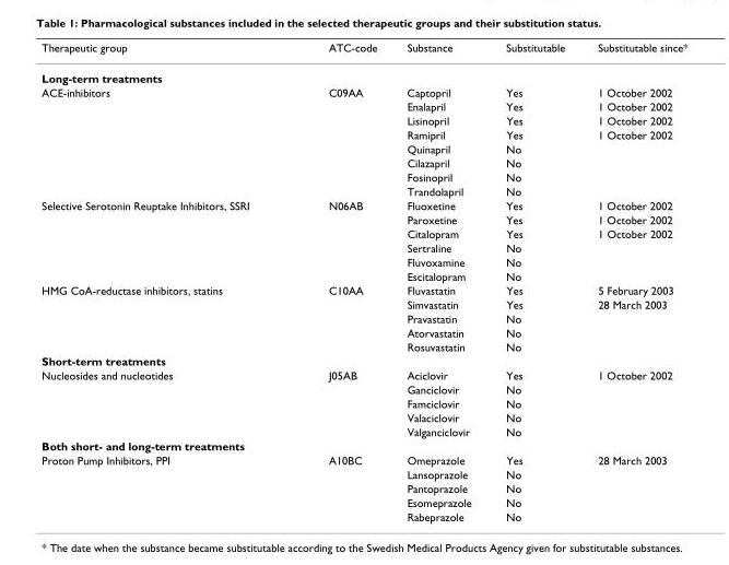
<table><thead><tr><td>Therapeutic group</td><td>ATC-code</td><td>Substance</td><td>Substitutable</td><td>Substitutable since*</td></tr></thead><tbody><tr><td colspan="5">Long-term treatments</td></tr><tr><td rowspan="8">ACE-inhibitors</td><td>C09AA</td><td>Captopril</td><td>Yes</td><td>1 October 2002</td></tr><tr><td></td><td>Enalapril</td><td>Yes</td><td>1 October 2002</td></tr><tr><td></td><td>Lisinopril</td><td>Yes</td><td>1 October 2002</td></tr><tr><td></td><td>Ramipril</td><td>Yes</td><td>1 October 2002</td></tr><tr><td></td><td>Quinapril</td><td>No</td><td></td></tr><tr><td></td><td>Cilazapril</td><td>No</td><td></td></tr><tr><td></td><td>Fosinopril</td><td>No</td><td></td></tr><tr><td></td><td>Trandolapril</td><td>No</td><td></td></tr><tr><td rowspan="6">Selective Serotonin Reuptake Inhibitors, SSRI</td><td>N06AB</td><td>Fluoxetine</td><td>Yes</td><td>1 October 2002</td></tr><tr><td></td><td>Paroxetine</td><td>Yes</td><td>1 October 2002</td></tr><tr><td></td><td>Citalopram</td><td>Yes</td><td>1 October 2002</td></tr><tr><td></td><td>Sertraline</td><td>No</td><td></td></tr><tr><td></td><td>Fluvoxamine</td><td>No</td><td></td></tr><tr><td></td><td>Escitalopram</td><td>No</td><td></td></tr><tr><td rowspan="5">HMG CoA-reductase inhibitors, statins</td><td>C10AA</td><td>Fluvastatin</td><td>Yes</td><td>5 February 2003</td></tr><tr><td></td><td>Simvastatin</td><td>Yes</td><td>28 March 2003</td></tr><tr><td></td><td>Pravastatin</td><td>No</td><td></td></tr><tr><td></td><td>Atorvastatin</td><td>No</td><td></td></tr><tr><td></td><td>Rosuvastatin</td><td>No</td><td></td></tr><tr><td colspan="5">Short-term treatments</td></tr><tr><td rowspan="5">Nucleosides and nucleotides</td><td>J05AB</td><td>Aciclovir</td><td>Yes</td><td>1 October 2002</td></tr><tr><td></td><td>Ganciclovir</td><td>No</td><td></td></tr><tr><td></td><td>Famciclovir</td><td>No</td><td></td></tr><tr><td></td><td>Valaciclovir</td><td>No</td><td></td></tr><tr><td></td><td>Valganciclovir</td><td>No</td><td></td></tr><tr><td colspan="5">Both short- and long-term treatments</td></tr><tr><td rowspan="5">Proton Pump Inhibitors, PPI</td><td>A10BC</td><td>Omeprazole</td><td>Yes</td><td>28 March 2003</td></tr><tr><td></td><td>Lansoprazole</td><td>No</td><td></td></tr><tr><td></td><td>Pantoprazole</td><td>No</td><td></td></tr><tr><td></td><td>Esomeprazole</td><td>No</td><td></td></tr><tr><td></td><td>Rabeprazole</td><td>No</td><td></td></tr></tbody></table>